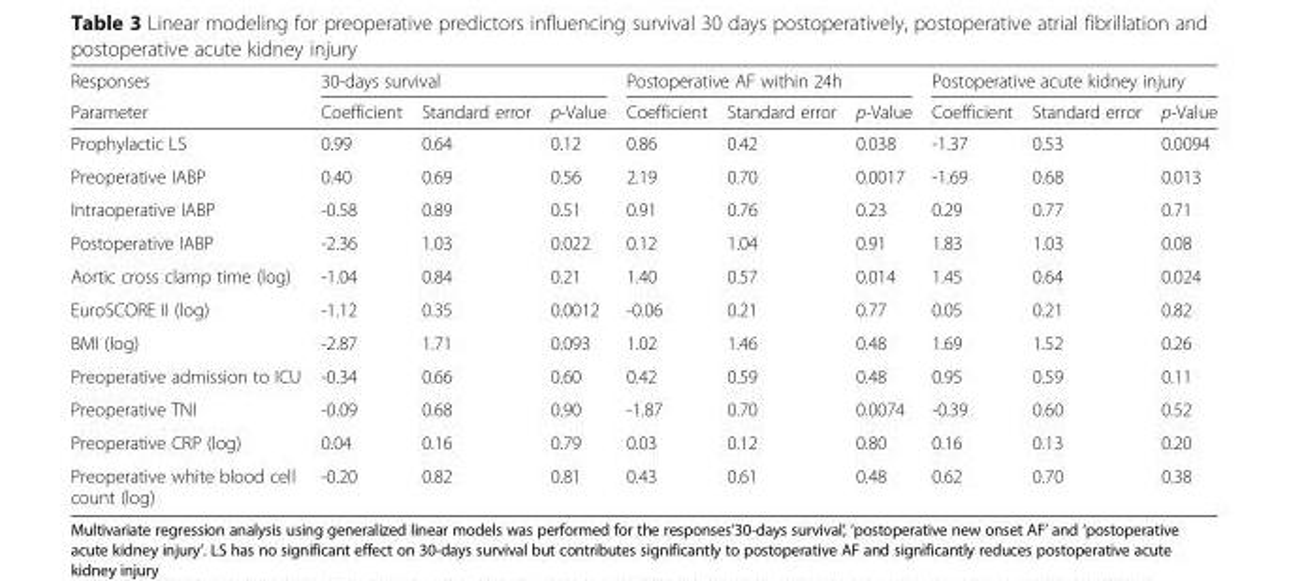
<table><thead><tr><td rowspan="2">Responses Parameter</td><td colspan="3">30-days survival</td><td colspan="3">Postoperative AF within 24h</td><td colspan="3">Postoperative acute kidney injury</td></tr><tr><td>Coefficient</td><td>Standard error</td><td>p-Value</td><td>Coefficient</td><td>Standard error</td><td>p-Value</td><td>Coefficient</td><td>Standard error</td><td>p-Value</td></tr></thead><tbody><tr><td>Prophylactic LS</td><td>0.99</td><td>0.64</td><td>0.12</td><td>0.86</td><td>0.42</td><td>0.038</td><td>-1.37</td><td>0.53</td><td>0.0094</td></tr><tr><td>Preoperative IABP</td><td>0.40</td><td>0.69</td><td>0.56</td><td>2.19</td><td>0.70</td><td>0.0017</td><td>-1.69</td><td>0.68</td><td>0.013</td></tr><tr><td>Intraoperative IABP</td><td>-0.58</td><td>0.89</td><td>0.51</td><td>0.91</td><td>0.76</td><td>0.23</td><td>0.29</td><td>0.77</td><td>0.71</td></tr><tr><td>Postoperative IABP</td><td>-2.36</td><td>1.03</td><td>0.022</td><td>0.12</td><td>1.04</td><td>0.91</td><td>1.83</td><td>1.03</td><td>0.08</td></tr><tr><td>Aortic cross clamp time (log)</td><td>-1.04</td><td>0.84</td><td>0.21</td><td>1.40</td><td>0.57</td><td>0.014</td><td>1.45</td><td>0.64</td><td>0.024</td></tr><tr><td>EuroSCORE II (log)</td><td>-1.12</td><td>0.35</td><td>0.0012</td><td>-0.06</td><td>0.21</td><td>0.77</td><td>0.05</td><td>0.21</td><td>0.82</td></tr><tr><td>BMI (log)</td><td>-2.87</td><td>1.71</td><td>0.093</td><td>1.02</td><td>1.46</td><td>0.48</td><td>1.69</td><td>1.52</td><td>0.26</td></tr><tr><td>Preoperative admission to ICU</td><td>-0.34</td><td>0.66</td><td>0.60</td><td>0.42</td><td>0.59</td><td>0.48</td><td>0.95</td><td>0.59</td><td>0.11</td></tr><tr><td>Preoperative TNI</td><td>-0.09</td><td>0.68</td><td>0.90</td><td>-1.87</td><td>0.70</td><td>0.0074</td><td>-0.39</td><td>0.60</td><td>0.52</td></tr><tr><td>Preoperative CRP (log)</td><td>0.04</td><td>0.16</td><td>0.79</td><td>0.03</td><td>0.12</td><td>0.80</td><td>0.16</td><td>0.13</td><td>0.20</td></tr><tr><td>Preoperative white blood cell count (log)</td><td>-0.20</td><td>0.82</td><td>0.81</td><td>0.43</td><td>0.61</td><td>0.48</td><td>0.62</td><td>0.70</td><td>0.38</td></tr></tbody></table>